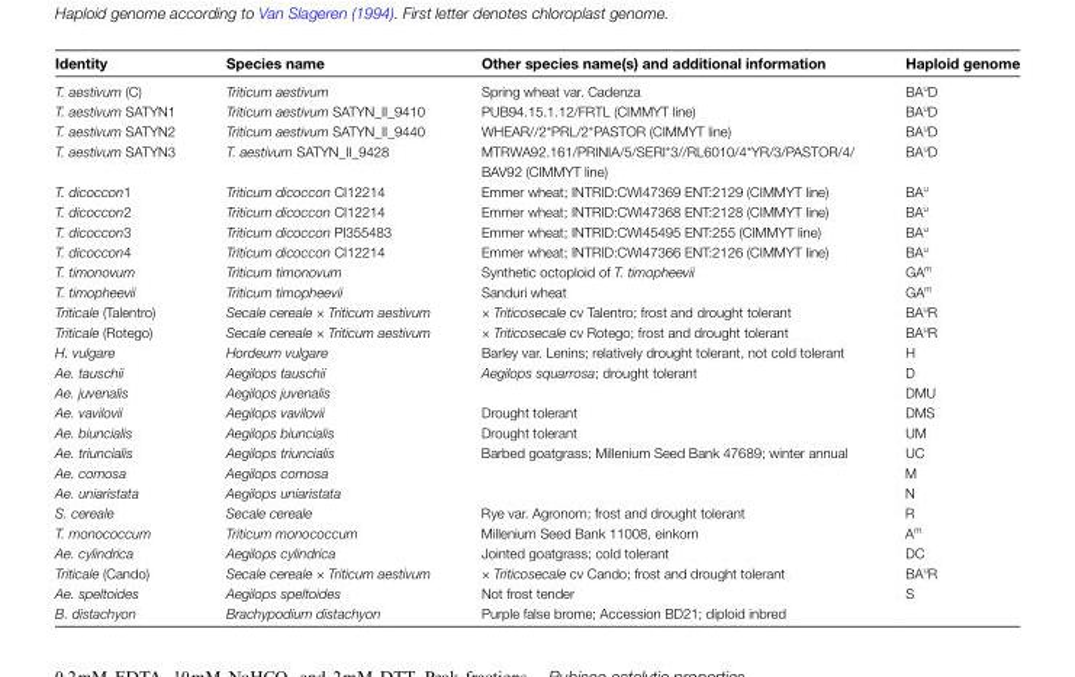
<table><thead><tr><td>Identity</td><td>Species name</td><td>Other species name(s) and additional information</td><td>Haploid genome</td></tr></thead><tbody><tr><td>T. aestivum (C)</td><td>Triticum aestivum</td><td>Spring wheat var. Cadenza</td><td>BA<sup>u</sup>D</td></tr><tr><td>T. aestivum SATYN1</td><td>Triticum aestivum SATYN_II_9410</td><td>PUB94.15.1.12/FRTL (CIMMYT line)</td><td>BA<sup>u</sup>D</td></tr><tr><td>T. aestivum SATYN2</td><td>Triticum aestivum SATYN_II_9440</td><td>WHEAR//2*PRL/2*PASTOR (CIMMYT line)</td><td>BA<sup>u</sup>D</td></tr><tr><td>T. aestivum SATYN3</td><td>T. aestivum SATYN_II_9428</td><td>MTRWA92.161/PRINIA/5/SERI*3//RL6010/4*YR/3/PASTOR/4/ BAV92 (CIMMYT line)</td><td>BA<sup>u</sup>D</td></tr><tr><td>T. dicoccon1</td><td>Triticum dicoccon CI12214</td><td>Emmer wheat; INTRID:CWI47369 ENT:2129 (CIMMYT line)</td><td>BA<sup>u</sup></td></tr><tr><td>T. dicoccon2</td><td>Triticum dicoccon CI12214</td><td>Emmer wheat; INTRID:CWI47368 ENT:2128 (CIMMYT line)</td><td>BA<sup>u</sup></td></tr><tr><td>T. dicoccon3</td><td>Triticum dicoccon PI355483</td><td>Emmer wheat; INTRID:CWI45495 ENT:255 (CIMMYT line)</td><td>BA<sup>u</sup></td></tr><tr><td>T. dicoccon4</td><td>Triticum dicoccon CI12214</td><td>Emmer wheat; INTRID:CWI47366 ENT:2126 (CIMMYT line)</td><td>BA<sup>u</sup></td></tr><tr><td>T. timonovum</td><td>Triticum timonovum</td><td>Synthetic octoploid of T. timopheevii</td><td>GA<sup>m</sup></td></tr><tr><td>T. timopheevii</td><td>Triticum timopheevii</td><td>Sanduri wheat</td><td>GA<sup>m</sup></td></tr><tr><td>Triticale (Talentro)</td><td>Secale cereale × Triticum aestivum</td><td>× Triticosecale cv Talentro; frost and drought tolerant</td><td>BA<sup>u</sup>R</td></tr><tr><td>Triticale (Rotego)</td><td>Secale cereale × Triticum aestivum</td><td>× Triticosecale cv Rotego; frost and drought tolerant</td><td>BA<sup>u</sup>R</td></tr><tr><td>H. vulgare</td><td>Hordeum vulgare</td><td>Barley var. Lenins; relatively drought tolerant, not cold tolerant</td><td>H</td></tr><tr><td>Ae. tauschii</td><td>Aegilops tauschii</td><td>Aegilops squarrosa; drought tolerant</td><td>D</td></tr><tr><td>Ae. juvenalis</td><td>Aegilops juvenalis</td><td></td><td>DMU</td></tr><tr><td>Ae. vavilovii</td><td>Aegilops vavilovii</td><td>Drought tolerant</td><td>DMS</td></tr><tr><td>Ae. biuncialis</td><td>Aegilops biuncialis</td><td>Drought tolerant</td><td>UM</td></tr><tr><td>Ae. triuncialis</td><td>Aegilops triuncialis</td><td>Barbed goatgrass; Millenium Seed Bank 47689; winter annual</td><td>UC</td></tr><tr><td>Ae. comosa</td><td>Aegilops comosa</td><td></td><td>M</td></tr><tr><td>Ae. uniaristata</td><td>Aegilops uniaristata</td><td></td><td>N</td></tr><tr><td>S. cereale</td><td>Secale cereale</td><td>Rye var. Agronom; frost and drought tolerant</td><td>R</td></tr><tr><td>T. monococcum</td><td>Triticum monococcum</td><td>Millenium Seed Bank 11008, einkorn</td><td>A<sup>m</sup></td></tr><tr><td>Ae. cylindrica</td><td>Aegilops cylindrica</td><td>Jointed goatgrass; cold tolerant</td><td>DC</td></tr><tr><td>Triticale (Cando)</td><td>Secale cereale × Triticum aestivum</td><td>× Triticosecale cv Cando; frost and drought tolerant</td><td>BA<sup>u</sup>R</td></tr><tr><td>Ae. speltoides</td><td>Aegilops speltoides</td><td>Not frost tender</td><td>S</td></tr><tr><td>B. distachyon</td><td>Brachypodium distachyon</td><td colspan="2">Purple false brome; Accession BD21; diploid inbred</td></tr></tbody></table>